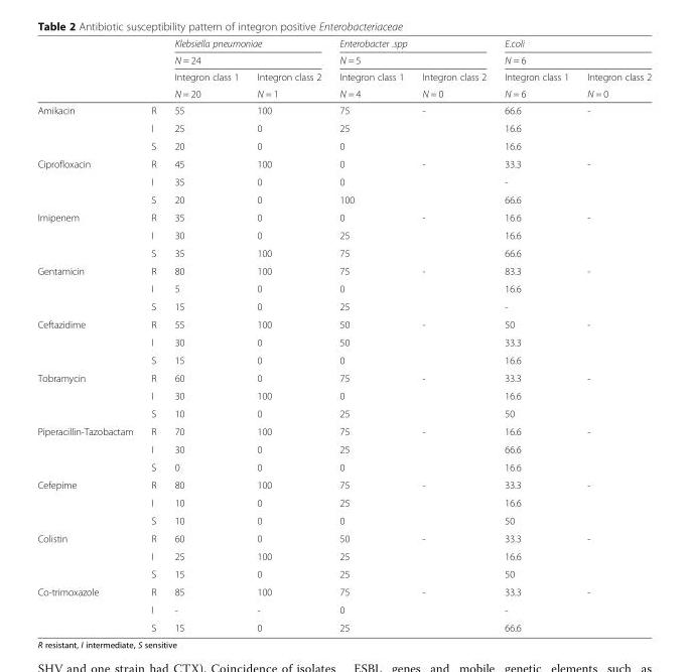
<table><thead><tr><td rowspan="4"></td><td rowspan="4"></td><td rowspan="2" colspan="2">Klebsiella pneumoniae N = 24</td><td rowspan="2" colspan="2">Enterobacter .spp N = 5</td><td rowspan="2" colspan="2">E.coli N = 6</td></tr><tr></tr><tr><td rowspan="2">Integron class 1 N = 20</td><td rowspan="2">Integron class 2 N = 1</td><td rowspan="2">Integron class 1 N = 4</td><td rowspan="2">Integron class 2 N = 0</td><td rowspan="2">Integron class 1 N = 6</td><td rowspan="2">Integron class 2 N = 0</td></tr><tr></tr></thead><tbody><tr><td rowspan="3">Amikacin</td><td>R</td><td>55</td><td>100</td><td>75</td><td rowspan="3">-</td><td>66.6</td><td rowspan="3">-</td></tr><tr><td>I</td><td>25</td><td>0</td><td>25</td><td>16.6</td></tr><tr><td>S</td><td>20</td><td>0</td><td>0</td><td>16.6</td></tr><tr><td rowspan="3">Ciprofloxacin</td><td>R</td><td>45</td><td>100</td><td>0</td><td rowspan="3">-</td><td>33.3</td><td rowspan="3">-</td></tr><tr><td>I</td><td>35</td><td>0</td><td>0</td><td>-</td></tr><tr><td>S</td><td>20</td><td>0</td><td>100</td><td>66.6</td></tr><tr><td rowspan="3">Imipenem</td><td>R</td><td>35</td><td>0</td><td>0</td><td rowspan="3">-</td><td>16.6</td><td rowspan="3">-</td></tr><tr><td>I</td><td>30</td><td>0</td><td>25</td><td>16.6</td></tr><tr><td>S</td><td>35</td><td>100</td><td>75</td><td>66.6</td></tr><tr><td rowspan="3">Gentamicin</td><td>R</td><td>80</td><td>100</td><td>75</td><td rowspan="3">-</td><td>83.3</td><td rowspan="3">-</td></tr><tr><td>I</td><td>5</td><td>0</td><td>0</td><td>16.6</td></tr><tr><td>S</td><td>15</td><td>0</td><td>25</td><td>-</td></tr><tr><td rowspan="3">Ceftazidime</td><td>R</td><td>55</td><td>100</td><td>50</td><td rowspan="3">-</td><td>50</td><td rowspan="3">-</td></tr><tr><td>I</td><td>30</td><td>0</td><td>50</td><td>33.3</td></tr><tr><td>S</td><td>15</td><td>0</td><td>0</td><td>16.6</td></tr><tr><td rowspan="3">Tobramycin</td><td>R</td><td>60</td><td>0</td><td>75</td><td rowspan="3">-</td><td>33.3</td><td rowspan="3">-</td></tr><tr><td>I</td><td>30</td><td>100</td><td>0</td><td>16.6</td></tr><tr><td>S</td><td>10</td><td>0</td><td>25</td><td>50</td></tr><tr><td rowspan="3">Piperacillin-Tazobactam</td><td>R</td><td>70</td><td>100</td><td>75</td><td rowspan="3">-</td><td>16.6</td><td rowspan="3">-</td></tr><tr><td>I</td><td>30</td><td>0</td><td>25</td><td>66.6</td></tr><tr><td>S</td><td>0</td><td>0</td><td>0</td><td>16.6</td></tr><tr><td rowspan="3">Cefepime</td><td>R</td><td>80</td><td>100</td><td>75</td><td rowspan="3">-</td><td>33.3</td><td rowspan="3">-</td></tr><tr><td>I</td><td>10</td><td>0</td><td>25</td><td>16.6</td></tr><tr><td>S</td><td>10</td><td>0</td><td>0</td><td>50</td></tr><tr><td rowspan="3">Colistin</td><td>R</td><td>60</td><td>0</td><td>50</td><td rowspan="3">-</td><td>33.3</td><td rowspan="3">-</td></tr><tr><td>I</td><td>25</td><td>100</td><td>25</td><td>16.6</td></tr><tr><td>S</td><td>15</td><td>0</td><td>25</td><td>50</td></tr><tr><td rowspan="3">Co-trimoxazole</td><td>R</td><td>85</td><td>100</td><td>75</td><td rowspan="3">-</td><td>33.3</td><td rowspan="3">-</td></tr><tr><td>I</td><td>-</td><td>-</td><td>0</td><td>-</td></tr><tr><td>S</td><td>15</td><td>0</td><td>25</td><td>66.6</td></tr></tbody></table>